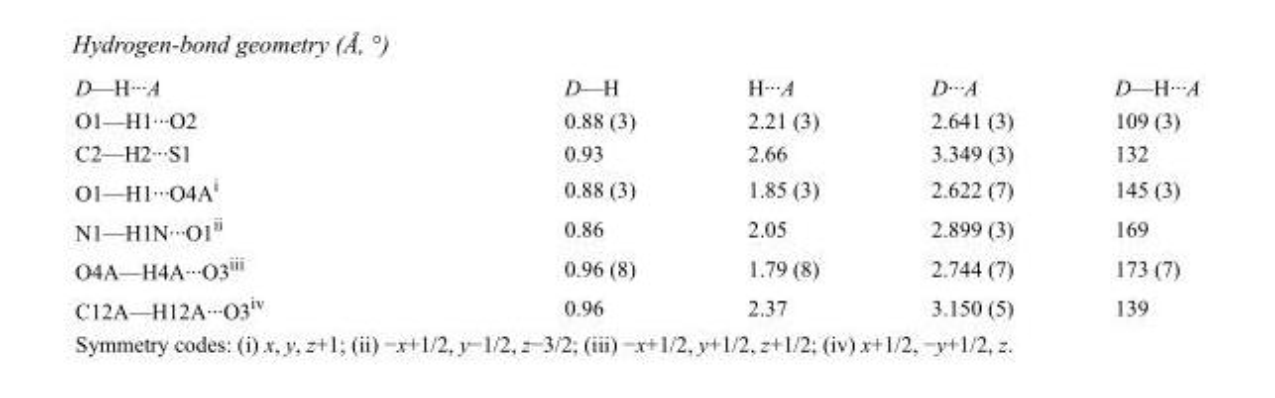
<table><tbody><tr><td>D—H···A</td><td>D—H</td><td>H···A</td><td>D···A</td><td>D—H···A</td></tr><tr><td>O1—H1···O2</td><td>0.88 (3)</td><td>2.21 (3)</td><td>2.641 (3)</td><td>109 (3)</td></tr><tr><td>C2—H2···S1</td><td>0.93</td><td>2.66</td><td>3.349 (3)</td><td>132</td></tr><tr><td>O1—H1···O4A<sup>i</sup></td><td>0.88 (3)</td><td>1.85 (3)</td><td>2.622 (7)</td><td>145 (3)</td></tr><tr><td>N1—H1N···O1<sup>ii</sup></td><td>0.86</td><td>2.05</td><td>2.899 (3)</td><td>169</td></tr><tr><td>O4A—H4A···O3<sup>iii</sup></td><td>0.96 (8)</td><td>1.79 (8)</td><td>2.744 (7)</td><td>173 (7)</td></tr><tr><td>C12A—H12A···O3<sup>iv</sup></td><td>0.96</td><td>2.37</td><td>3.150 (5)</td><td>139</td></tr></tbody></table>